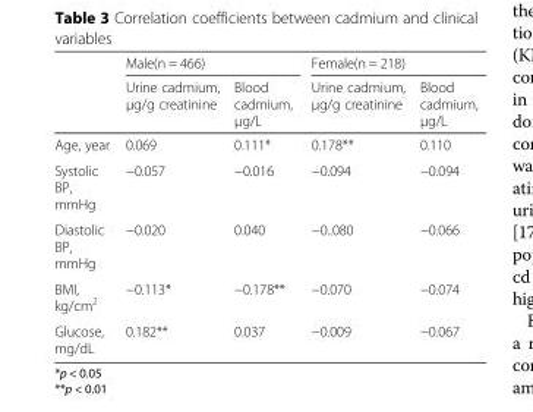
<table><thead><tr><td rowspan="2"></td><td colspan="2">Male(n = 466)</td><td colspan="2">Female(n = 218)</td></tr><tr><td>Urine cadmium, μg/g creatinine</td><td>Blood cadmium, μg/L</td><td>Urine cadmium, μg/g creatinine</td><td>Blood cadmium, μg/L</td></tr></thead><tbody><tr><td>Age, year</td><td>0.069</td><td>0.111*</td><td>0.178**</td><td>0.110</td></tr><tr><td>Systolic BP, mmHg</td><td>−0.057</td><td>−0.016</td><td>−0.094</td><td>−0.094</td></tr><tr><td>Diastolic BP, mmHg</td><td>−0.020</td><td>0.040</td><td>−0..080</td><td>−0.066</td></tr><tr><td>BMI, kg/cm<sup>2</sup></td><td>−0.113*</td><td>−0.178**</td><td>−0.070</td><td>−0.074</td></tr><tr><td>Glucose, mg/dL</td><td>0.182**</td><td>0.037</td><td>−0.009</td><td>−0.067</td></tr></tbody></table>